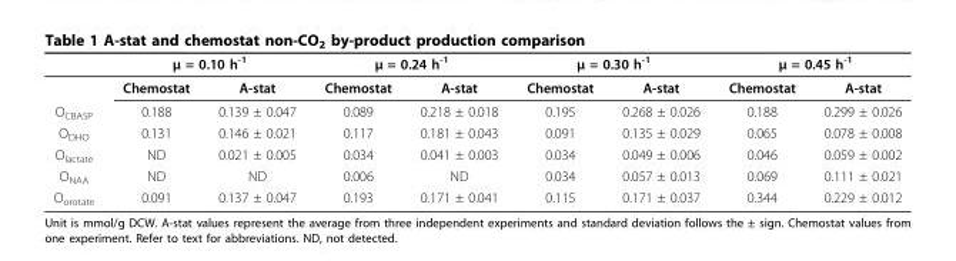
<table><thead><tr><td rowspan="2"></td><td colspan="2">μ = 0.10 h<sup>-1</sup></td><td colspan="2">μ = 0.24 h<sup>-1</sup></td><td colspan="2">μ = 0.30 h<sup>-1</sup></td><td colspan="2">μ = 0.45 h<sup>-1</sup></td></tr><tr><td>Chemostat</td><td>A-stat</td><td>Chemostat</td><td>A-stat</td><td>Chemostat</td><td>A-stat</td><td>Chemostat</td><td>A-stat</td></tr></thead><tbody><tr><td>O<sub>CBASP</sub></td><td>0.188</td><td>0.139 ± 0.047</td><td>0.089</td><td>0.218 ± 0.018</td><td>0.195</td><td>0.268 ± 0.026</td><td>0.188</td><td>0.299 ± 0.026</td></tr><tr><td>O<sub>DHO</sub></td><td>0.131</td><td>0.146 ± 0.021</td><td>0.117</td><td>0.181 ± 0.043</td><td>0.091</td><td>0.135 ± 0.029</td><td>0.065</td><td>0.078 ± 0.008</td></tr><tr><td>O<sub>lactate</sub></td><td>ND</td><td>0.021 ± 0.005</td><td>0.034</td><td>0.041 ± 0.003</td><td>0.034</td><td>0.049 ± 0.006</td><td>0.046</td><td>0.059 ± 0.002</td></tr><tr><td>O<sub>NAA</sub></td><td>ND</td><td>ND</td><td>0.006</td><td>ND</td><td>0.034</td><td>0.057 ± 0.013</td><td>0.069</td><td>0.111 ± 0.021</td></tr><tr><td>O<sub>orotate</sub></td><td>0.091</td><td>0.137 ± 0.047</td><td>0.193</td><td>0.171 ± 0.041</td><td>0.115</td><td>0.171 ± 0.037</td><td>0.344</td><td>0.229 ± 0.012</td></tr></tbody></table>